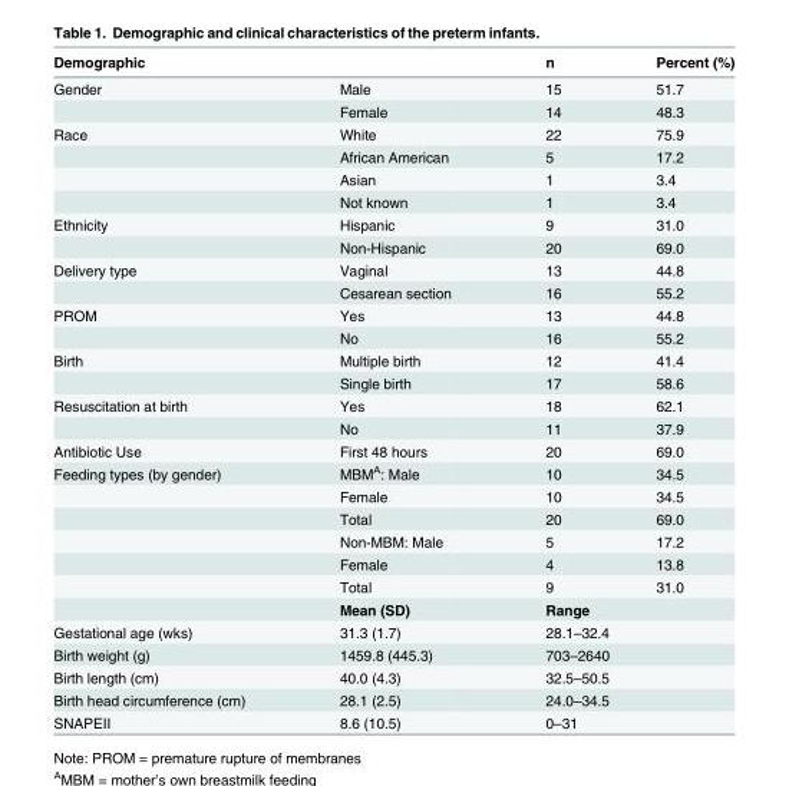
<table><thead><tr><td colspan="2">Demographic</td><td rowspan="2">n 15</td><td rowspan="2">Percent (%) 51.7</td></tr><tr><td>Gender</td><td>Male</td></tr></thead><tbody><tr><td></td><td>Female</td><td>14</td><td>48.3</td></tr><tr><td rowspan="4">Race</td><td>White</td><td>22</td><td>75.9</td></tr><tr><td>African American</td><td>5</td><td>17.2</td></tr><tr><td>Asian</td><td>1</td><td>3.4</td></tr><tr><td>Not known</td><td>1</td><td>3.4</td></tr><tr><td rowspan="2">Ethnicity</td><td>Hispanic</td><td>9</td><td>31.0</td></tr><tr><td>Non-Hispanic</td><td>20</td><td>69.0</td></tr><tr><td rowspan="2">Delivery type</td><td>Vaginal</td><td>13</td><td>44.8</td></tr><tr><td>Cesarean section</td><td>16</td><td>55.2</td></tr><tr><td rowspan="2">PROM</td><td>Yes</td><td>13</td><td>44.8</td></tr><tr><td>No</td><td>16</td><td>55.2</td></tr><tr><td rowspan="2">Birth</td><td>Multiple birth</td><td>12</td><td>41.4</td></tr><tr><td>Single birth</td><td>17</td><td>58.6</td></tr><tr><td rowspan="2">Resuscitation at birth</td><td>Yes</td><td>18</td><td>62.1</td></tr><tr><td>No</td><td>11</td><td>37.9</td></tr><tr><td>Antibiotic Use</td><td>First 48 hours</td><td>20</td><td>69.0</td></tr><tr><td rowspan="7">Feeding types (by gender)</td><td>MBM<sup>A</sup>: Male</td><td>10</td><td>34.5</td></tr><tr><td>Female</td><td>10</td><td>34.5</td></tr><tr><td>Total</td><td>20</td><td>69.0</td></tr><tr><td>Non-MBM: Male</td><td>5</td><td>17.2</td></tr><tr><td>Female</td><td>4</td><td>13.8</td></tr><tr><td>Total</td><td>9</td><td>31.0</td></tr><tr><td>Mean (SD)</td><td colspan="2">Range</td></tr><tr><td>Gestational age (wks)</td><td>31.3 (1.7)</td><td colspan="2">28.1–32.4</td></tr><tr><td>Birth weight (g)</td><td>1459.8 (445.3)</td><td colspan="2">703–2640</td></tr><tr><td>Birth length (cm)</td><td>40.0 (4.3)</td><td colspan="2">32.5–50.5</td></tr><tr><td>Birth head circumference (cm)</td><td>28.1 (2.5)</td><td colspan="2">24.0–34.5</td></tr><tr><td>SNAPEII</td><td>8.6 (10.5)</td><td colspan="2">0–31</td></tr></tbody></table>